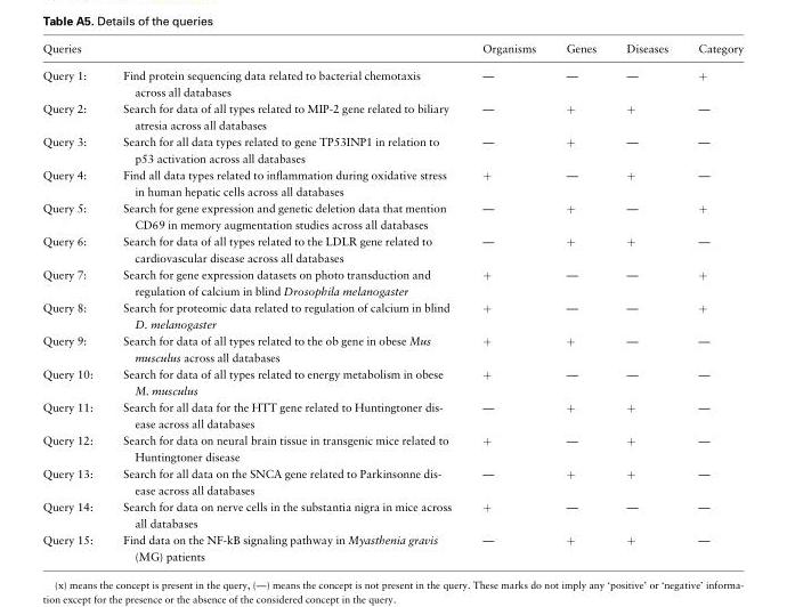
<table><thead><tr><td>Queries</td><td></td><td>Organisms</td><td>Genes</td><td>Diseases</td><td>Category</td></tr></thead><tbody><tr><td>Query 1:</td><td>Find protein sequencing data related to bacterial chemotaxis across all databases</td><td>—</td><td>—</td><td>—</td><td>+</td></tr><tr><td>Query 2:</td><td>Search for data of all types related to MIP-2 gene related to biliary atresia across all databases</td><td>—</td><td>+</td><td>+</td><td>—</td></tr><tr><td>Query 3:</td><td>Search for all data types related to gene TP53INP1 in relation to p53 activation across all databases</td><td>—</td><td>+</td><td>—</td><td>—</td></tr><tr><td>Query 4:</td><td>Find all data types related to inflammation during oxidative stress in human hepatic cells across all databases</td><td>+</td><td>—</td><td>+</td><td>—</td></tr><tr><td>Query 5:</td><td>Search for gene expression and genetic deletion data that mention CD69 in memory augmentation studies across all databases</td><td>—</td><td>+</td><td>—</td><td>+</td></tr><tr><td>Query 6:</td><td>Search for data of all types related to the LDLR gene related to cardiovascular disease across all databases</td><td>—</td><td>+</td><td>+</td><td>—</td></tr><tr><td>Query 7:</td><td>Search for gene expression datasets on photo transduction and regulation of calcium in blind Drosophila melanogaster</td><td>+</td><td>—</td><td>—</td><td>+</td></tr><tr><td>Query 8:</td><td>Search for proteomic data related to regulation of calcium in blind D. melanogaster</td><td>+</td><td>—</td><td>—</td><td>+</td></tr><tr><td>Query 9:</td><td>Search for data of all types related to the ob gene in obese Mus musculus across all databases</td><td>+</td><td>+</td><td>—</td><td>—</td></tr><tr><td>Query 10:</td><td>Search for data of all types related to energy metabolism in obese M. musculus</td><td>+</td><td>—</td><td>—</td><td>—</td></tr><tr><td>Query 11:</td><td>Search for all data for the HTT gene related to Huntingtoner dis- ease across all databases</td><td>—</td><td>+</td><td>+</td><td>—</td></tr><tr><td>Query 12:</td><td>Search for data on neural brain tissue in transgenic mice related to Huntingtoner disease</td><td>+</td><td>—</td><td>+</td><td>—</td></tr><tr><td>Query 13:</td><td>Search for all data on the SNCA gene related to Parkinsonne dis- ease across all databases</td><td>—</td><td>+</td><td>+</td><td>—</td></tr><tr><td>Query 14:</td><td>Search for data on nerve cells in the substantia nigra in mice across all databases</td><td>+</td><td>—</td><td>—</td><td>—</td></tr><tr><td>Query 15:</td><td>Find data on the NF-kB signaling pathway in Myasthenia gravis (MG) patients</td><td>—</td><td>+</td><td>+</td><td>—</td></tr></tbody></table>